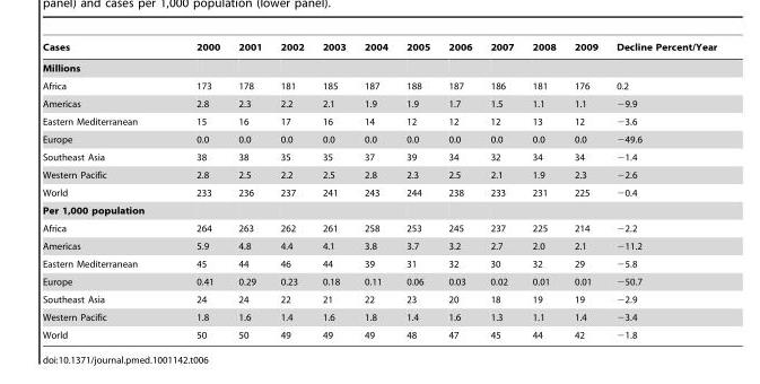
<table><thead><tr><td>Cases</td><td>2000</td><td>2001</td><td>2002</td><td>2003</td><td>2004</td><td>2005</td><td>2006</td><td>2007</td><td>2008</td><td>2009</td><td>Decline Percent/Year</td></tr></thead><tbody><tr><td colspan="12">Millions</td></tr><tr><td>Africa</td><td>173</td><td>178</td><td>181</td><td>185</td><td>187</td><td>188</td><td>187</td><td>186</td><td>181</td><td>176</td><td>0.2</td></tr><tr><td>Americas</td><td>2.8</td><td>2.3</td><td>2.2</td><td>2.1</td><td>1.9</td><td>1.9</td><td>1.7</td><td>1.5</td><td>1.1</td><td>1.1</td><td>−9.9</td></tr><tr><td>Eastern Mediterranean</td><td>15</td><td>16</td><td>17</td><td>16</td><td>14</td><td>12</td><td>12</td><td>12</td><td>13</td><td>12</td><td>−3.6</td></tr><tr><td>Europe</td><td>0.0</td><td>0.0</td><td>0.0</td><td>0.0</td><td>0.0</td><td>0.0</td><td>0.0</td><td>0.0</td><td>0.0</td><td>0.0</td><td>−49.6</td></tr><tr><td>Southeast Asia</td><td>38</td><td>38</td><td>35</td><td>35</td><td>37</td><td>39</td><td>34</td><td>32</td><td>34</td><td>34</td><td>−1.4</td></tr><tr><td>Western Pacific</td><td>2.8</td><td>2.5</td><td>2.2</td><td>2.5</td><td>2.8</td><td>2.3</td><td>2.5</td><td>2.1</td><td>1.9</td><td>2.3</td><td>−2.6</td></tr><tr><td>World</td><td>233</td><td>236</td><td>237</td><td>241</td><td>243</td><td>244</td><td>238</td><td>233</td><td>231</td><td>225</td><td>−0.4</td></tr><tr><td colspan="12">Per 1,000 population</td></tr><tr><td>Africa</td><td>264</td><td>263</td><td>262</td><td>261</td><td>258</td><td>253</td><td>245</td><td>237</td><td>225</td><td>214</td><td>−2.2</td></tr><tr><td>Americas</td><td>5.9</td><td>4.8</td><td>4.4</td><td>4.1</td><td>3.8</td><td>3.7</td><td>3.2</td><td>2.7</td><td>2.0</td><td>2.1</td><td>−11.2</td></tr><tr><td>Eastern Mediterranean</td><td>45</td><td>44</td><td>46</td><td>44</td><td>39</td><td>31</td><td>32</td><td>30</td><td>32</td><td>29</td><td>−5.8</td></tr><tr><td>Europe</td><td>0.41</td><td>0.29</td><td>0.23</td><td>0.18</td><td>0.11</td><td>0.06</td><td>0.03</td><td>0.02</td><td>0.01</td><td>0.01</td><td>−50.7</td></tr><tr><td>Southeast Asia</td><td>24</td><td>24</td><td>22</td><td>21</td><td>22</td><td>23</td><td>20</td><td>18</td><td>19</td><td>19</td><td>−2.9</td></tr><tr><td>Western Pacific</td><td>1.8</td><td>1.6</td><td>1.4</td><td>1.6</td><td>1.8</td><td>1.4</td><td>1.6</td><td>1.3</td><td>1.1</td><td>1.4</td><td>−3.4</td></tr><tr><td>World</td><td>50</td><td>50</td><td>49</td><td>49</td><td>49</td><td>48</td><td>47</td><td>45</td><td>44</td><td>42</td><td>−1.8</td></tr></tbody></table>